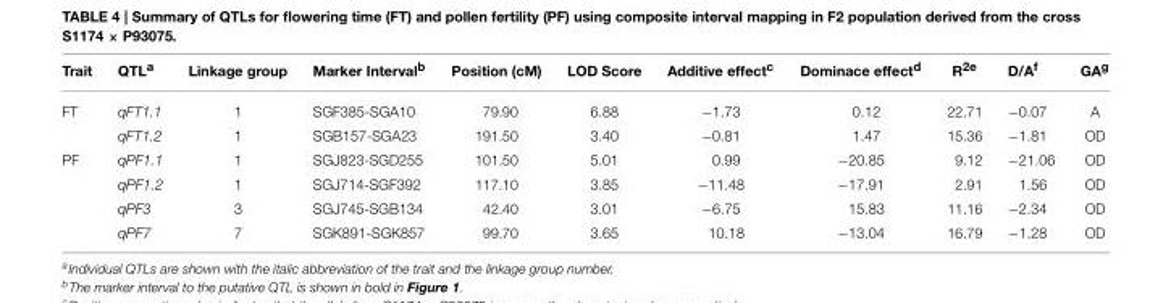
<table><thead><tr><td>Trait</td><td>QTL<sup>a</sup></td><td>Linkage group</td><td>Marker Interval<sup>b</sup></td><td>Position (cM)</td><td>LOD Score</td><td>Additive effect<sup>c</sup></td><td>Dominace effect<sup>d</sup></td><td>R<sup>2e</sup></td><td>D/A<sup>f</sup></td><td>GA<sup>g</sup></td></tr></thead><tbody><tr><td rowspan="2">FT</td><td>qFT1.1</td><td>1</td><td>SGF385-SGA10</td><td>79.90</td><td>6.88</td><td>−1.73</td><td>0.12</td><td>22.71</td><td>−0.07</td><td>A</td></tr><tr><td>qFT1.2</td><td>1</td><td>SGB157-SGA23</td><td>191.50</td><td>3.40</td><td>−0.81</td><td>1.47</td><td>15.36</td><td>−1.81</td><td>OD</td></tr><tr><td rowspan="4">PF</td><td>qPF1.1</td><td>1</td><td>SGJ823-SGD255</td><td>101.50</td><td>5.01</td><td>0.99</td><td>−20.85</td><td>9.12</td><td>−21.06</td><td>OD</td></tr><tr><td>qPF1.2</td><td>1</td><td>SGJ714-SGF392</td><td>117.10</td><td>3.85</td><td>−11.48</td><td>−17.91</td><td>2.91</td><td>1.56</td><td>OD</td></tr><tr><td>qPF3</td><td>3</td><td>SGJ745-SGB134</td><td>42.40</td><td>3.01</td><td>−6.75</td><td>15.83</td><td>11.16</td><td>−2.34</td><td>OD</td></tr><tr><td>qPF7</td><td>7</td><td>SGK891-SGK857</td><td>99.70</td><td>3.65</td><td>10.18</td><td>−13.04</td><td>16.79</td><td>−1.28</td><td>OD</td></tr></tbody></table>